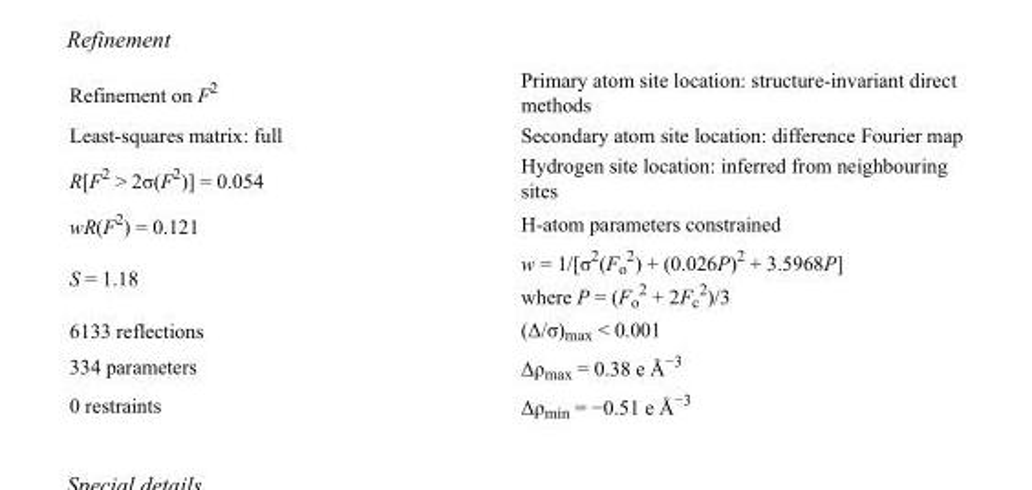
<table><tbody><tr><td>Refinement on F<sup>2</sup></td><td>Primary atom site location: structure-invariant direct methods</td></tr><tr><td>Least-squares matrix: full</td><td>Secondary atom site location: difference Fourier map</td></tr><tr><td>R[F<sup>2</sup> &gt; 2σ(F<sup>2</sup>)] = 0.054</td><td>Hydrogen site location: inferred from neighbouring sites</td></tr><tr><td>wR(F<sup>2</sup>) = 0.121</td><td>H-atom parameters constrained</td></tr><tr><td>S = 1.18</td><td>w = 1/[σ<sup>2</sup>(F<sub>o</sub> <sup>2</sup>) + (0.026P)<sup>2</sup> + 3.5968P] where P = (F<sub>o</sub> <sup>2</sup> + 2F<sub>c</sub> <sup>2</sup>)/3</td></tr><tr><td>6133 reflections</td><td>(Δ/σ)<sub>max</sub> &lt; 0.001</td></tr><tr><td>334 parameters</td><td>Δρ<sub>max</sub> = 0.38 e Å<sup>−3</sup></td></tr><tr><td>0 restraints</td><td>Δρ<sub>min</sub> = −0.51 e Å<sup>−3</sup></td></tr></tbody></table>